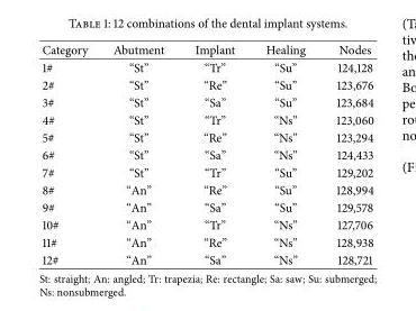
<table><thead><tr><td>Category</td><td>Abutment</td><td>Implant</td><td>Healing</td><td>Nodes</td></tr></thead><tbody><tr><td>1#</td><td>“St”</td><td>“Tr”</td><td>“Su”</td><td>124,128</td></tr><tr><td>2#</td><td>“St”</td><td>“Re”</td><td>“Su”</td><td>123,676</td></tr><tr><td>3#</td><td>“St”</td><td>“Sa”</td><td>“Su”</td><td>123,684</td></tr><tr><td>4#</td><td>“St”</td><td>“Tr”</td><td>“Ns”</td><td>123,060</td></tr><tr><td>5#</td><td>“St”</td><td>“Re”</td><td>“Ns”</td><td>123,294</td></tr><tr><td>6#</td><td>“St”</td><td>“Sa”</td><td>“Ns”</td><td>124,433</td></tr><tr><td>7#</td><td>“St”</td><td>“Tr”</td><td>“Su”</td><td>129,202</td></tr><tr><td>8#</td><td>“An”</td><td>“Re”</td><td>“Su”</td><td>128,994</td></tr><tr><td>9#</td><td>“An”</td><td>“Sa”</td><td>“Su”</td><td>129,578</td></tr><tr><td>10#</td><td>“An”</td><td>“Tr”</td><td>“Ns”</td><td>127,706</td></tr><tr><td>11#</td><td>“An”</td><td>“Re”</td><td>“Ns”</td><td>128,938</td></tr><tr><td>12#</td><td>“An”</td><td>“Sa”</td><td>“Ns”</td><td>128,721</td></tr></tbody></table>